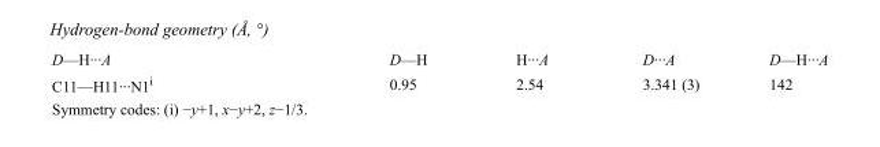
<table><tbody><tr><td>D—H···A</td><td>D—H</td><td>H···A</td><td>D···A</td><td>D—H···A</td></tr><tr><td>C11—H11···N1<sup>i</sup></td><td>0.95</td><td>2.54</td><td>3.341 (3)</td><td>142</td></tr></tbody></table>